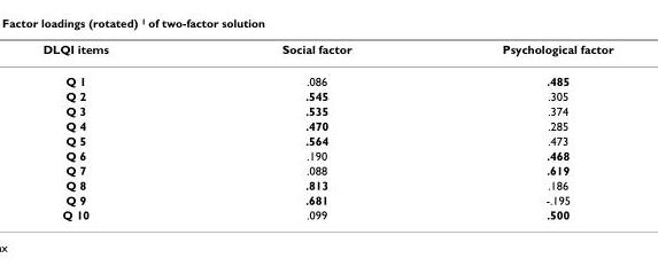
<table><thead><tr><td>DLQI items</td><td>Social factor</td><td>Psychological factor</td></tr></thead><tbody><tr><td>Q 1</td><td>.086</td><td>.485</td></tr><tr><td>Q 2</td><td>.545</td><td>.305</td></tr><tr><td>Q 3</td><td>.535</td><td>.374</td></tr><tr><td>Q 4</td><td>.470</td><td>.285</td></tr><tr><td>Q 5</td><td>.564</td><td>.473</td></tr><tr><td>Q 6</td><td>.190</td><td>.468</td></tr><tr><td>Q 7</td><td>.088</td><td>.619</td></tr><tr><td>Q 8</td><td>.813</td><td>.186</td></tr><tr><td>Q 9</td><td>.681</td><td>-.195</td></tr><tr><td>Q 10</td><td>.099</td><td>.500</td></tr></tbody></table>